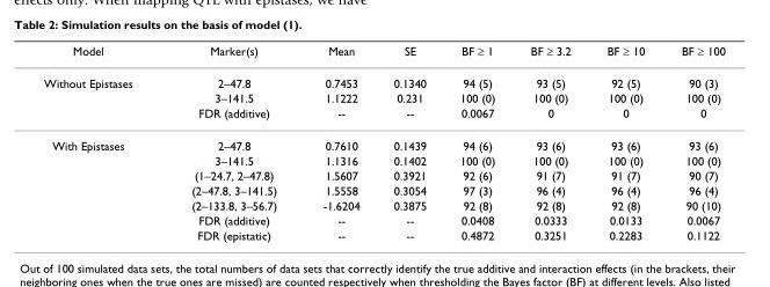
<table><thead><tr><td>Model</td><td>Marker(s)</td><td>Mean</td><td>SE</td><td>BF ≥ 1</td><td>BF ≥ 3.2</td><td>BF ≥ 10</td><td>BF ≥ 100</td></tr></thead><tbody><tr><td rowspan="3">Without Epistases</td><td>2–47.8</td><td>0.7453</td><td>0.1340</td><td>94 (5)</td><td>93 (5)</td><td>92 (5)</td><td>90 (3)</td></tr><tr><td>3–141.5</td><td>1.1222</td><td>0.231</td><td>100 (0)</td><td>100 (0)</td><td>100 (0)</td><td>100 (0)</td></tr><tr><td>FDR (additive)</td><td>--</td><td>--</td><td>0.0067</td><td>0</td><td>0</td><td>0</td></tr><tr><td rowspan="7">With Epistases</td><td>2–47.8</td><td>0.7610</td><td>0.1439</td><td>94 (6)</td><td>93 (6)</td><td>93 (6)</td><td>93 (6)</td></tr><tr><td>3–141.5</td><td>1.1316</td><td>0.1402</td><td>100 (0)</td><td>100 (0)</td><td>100 (0)</td><td>100 (0)</td></tr><tr><td>(1–24.7, 2–47.8)</td><td>1.5607</td><td>0.3921</td><td>92 (6)</td><td>91 (7)</td><td>91 (7)</td><td>90 (7)</td></tr><tr><td>(2–47.8, 3–141.5)</td><td>1.5558</td><td>0.3054</td><td>97 (3)</td><td>96 (4)</td><td>96 (4)</td><td>96 (4)</td></tr><tr><td>(2–133.8, 3–56.7)</td><td>-1.6204</td><td>0.3875</td><td>92 (8)</td><td>92 (8)</td><td>92 (8)</td><td>90 (10)</td></tr><tr><td>FDR (additive)</td><td>--</td><td>--</td><td>0.0408</td><td>0.0333</td><td>0.0133</td><td>0.0067</td></tr><tr><td>FDR (epistatic)</td><td>--</td><td>--</td><td>0.4872</td><td>0.3251</td><td>0.2283</td><td>0.1122</td></tr></tbody></table>